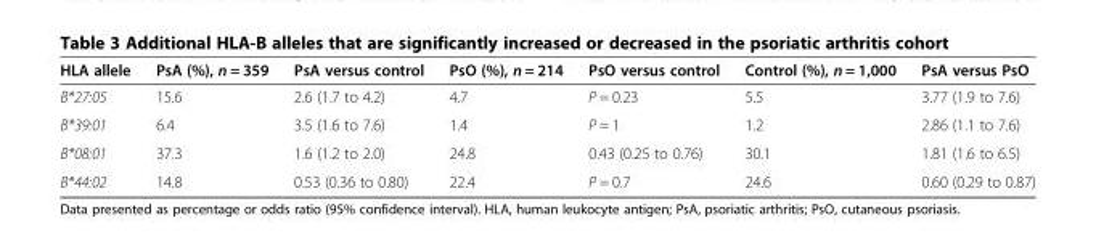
<table><thead><tr><td>HLA allele</td><td>PsA (%), n = 359</td><td>PsA versus control</td><td>PsO (%), n = 214</td><td>PsO versus control</td><td>Control (%), n = 1,000</td><td>PsA versus PsO</td></tr></thead><tbody><tr><td>B*27:05</td><td>15.6</td><td>2.6 (1.7 to 4.2)</td><td>4.7</td><td>P = 0.23</td><td>5.5</td><td>3.77 (1.9 to 7.6)</td></tr><tr><td>B*39:01</td><td>6.4</td><td>3.5 (1.6 to 7.6)</td><td>1.4</td><td>P = 1</td><td>1.2</td><td>2.86 (1.1 to 7.6)</td></tr><tr><td>B*08:01</td><td>37.3</td><td>1.6 (1.2 to 2.0)</td><td>24.8</td><td>0.43 (0.25 to 0.76)</td><td>30.1</td><td>1.81 (1.6 to 6.5)</td></tr><tr><td>B*44:02</td><td>14.8</td><td>0.53 (0.36 to 0.80)</td><td>22.4</td><td>P = 0.7</td><td>24.6</td><td>0.60 (0.29 to 0.87)</td></tr></tbody></table>